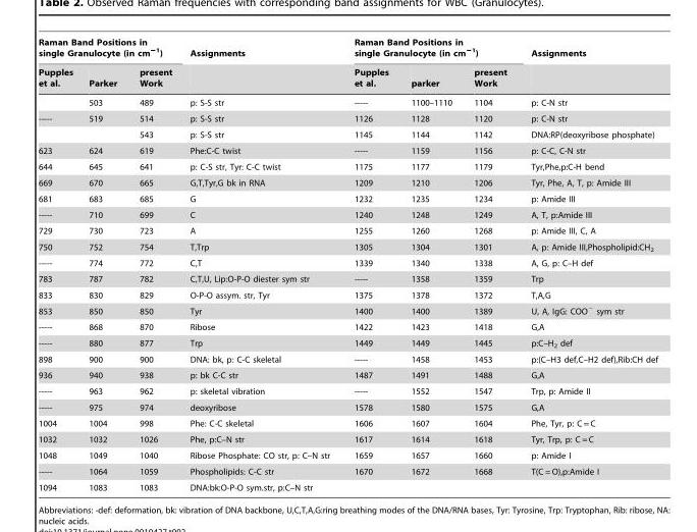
<table><thead><tr><td colspan="3">Raman Band Positions in single Granulocyte (in cm<sup>−1</sup>)</td><td rowspan="2">Assignments</td><td colspan="3">Raman Band Positions in single Granulocyte (in cm<sup>−1</sup>)</td><td rowspan="2">Assignments</td></tr><tr><td>Pupples et al.</td><td>Parker</td><td>present Work</td><td>Pupples et al.</td><td>parker</td><td>present Work</td></tr></thead><tbody><tr><td></td><td>503</td><td>489</td><td>p: S-S str</td><td>-----</td><td>1100–1110</td><td>1104</td><td>p: C-N str</td></tr><tr><td rowspan="2">-----</td><td>519</td><td>514</td><td>p: S-S str</td><td>1126</td><td>1128</td><td>1120</td><td>p: C-N str</td></tr><tr><td></td><td>543</td><td>p: S-S str</td><td>1145</td><td>1144</td><td>1142</td><td>DNA:RP(deoxyribose phosphate)</td></tr><tr><td>623</td><td>624</td><td>619</td><td>Phe:C-C twist</td><td>-----</td><td>1159</td><td>1156</td><td>p: C-C, C-N str</td></tr><tr><td>644</td><td>645</td><td>641</td><td>p: C-S str, Tyr: C-C twist</td><td>1175</td><td>1177</td><td>1179</td><td>Tyr,Phe,p:C-H bend</td></tr><tr><td>669</td><td>670</td><td>665</td><td>G,T,Tyr,G bk in RNA</td><td>1209</td><td>1210</td><td>1206</td><td>Tyr, Phe, A, T, p: Amide III</td></tr><tr><td>681</td><td>683</td><td>685</td><td>G</td><td>1232</td><td>1235</td><td>1234</td><td>p: Amide III</td></tr><tr><td>-----</td><td>710</td><td>699</td><td>C</td><td>1240</td><td>1248</td><td>1249</td><td>A, T, p:Amide III</td></tr><tr><td>729</td><td>730</td><td>723</td><td>A</td><td>1255</td><td>1260</td><td>1268</td><td>p: Amide III, C, A</td></tr><tr><td>750</td><td>752</td><td>754</td><td>T,Trp</td><td>1305</td><td>1304</td><td>1301</td><td>A, p: Amide III,Phospholipid:CH<sub>2</sub></td></tr><tr><td>-----</td><td>774</td><td>772</td><td>C,T</td><td>1339</td><td>1340</td><td>1338</td><td>A, G, p: C–H def</td></tr><tr><td>783</td><td>787</td><td>782</td><td>C,T,U, Lip:O-P-O diester sym str</td><td>-----</td><td>1358</td><td>1359</td><td>Trp</td></tr><tr><td>833</td><td>830</td><td>829</td><td>O-P-O assym. str, Tyr</td><td>1375</td><td>1378</td><td>1372</td><td>T,A,G</td></tr><tr><td>853</td><td>850</td><td>850</td><td>Tyr</td><td>1400</td><td>1400</td><td>1389</td><td>U, A, IgG: COO<sup>−</sup> sym str</td></tr><tr><td>-----</td><td>868</td><td>870</td><td>Ribose</td><td>1422</td><td>1423</td><td>1418</td><td>G,A</td></tr><tr><td>-----</td><td>880</td><td>877</td><td>Trp</td><td>1449</td><td>1449</td><td>1445</td><td>p:C–H<sub>2</sub> def</td></tr><tr><td>898</td><td>900</td><td>900</td><td>DNA: bk, p: C-C skeletal</td><td>-----</td><td>1458</td><td>1453</td><td>p:(C–H3 def,C–H2 def),Rib:CH def</td></tr><tr><td>936</td><td>940</td><td>938</td><td>p: bk C-C str</td><td>1487</td><td>1491</td><td>1488</td><td>G,A</td></tr><tr><td>-----</td><td>963</td><td>962</td><td>p: skeletal vibration</td><td>-----</td><td>1552</td><td>1547</td><td>Trp, p: Amide II</td></tr><tr><td>-----</td><td>975</td><td>974</td><td>deoxyribose</td><td>1578</td><td>1580</td><td>1575</td><td>G,A</td></tr><tr><td>1004</td><td>1004</td><td>998</td><td>Phe: C-C skeletal</td><td>1606</td><td>1607</td><td>1604</td><td>Phe, Tyr, p: C = C</td></tr><tr><td>1032</td><td>1032</td><td>1026</td><td>Phe, p:C–N str</td><td>1617</td><td>1614</td><td>1618</td><td>Tyr, Trp, p: C = C</td></tr><tr><td>1048</td><td>1049</td><td>1040</td><td>Ribose Phosphate: CO str, p: C–N str</td><td>1659</td><td>1657</td><td>1660</td><td>p: Amide I</td></tr><tr><td>-----</td><td>1064</td><td>1059</td><td>Phospholipids: C-C str</td><td>1670</td><td>1672</td><td>1668</td><td>T(C = O),p:Amide I</td></tr><tr><td>1094</td><td>1083</td><td>1083</td><td>DNA:bk:O-P-O sym.str, p:C–N str</td><td></td><td></td><td></td><td></td></tr></tbody></table>